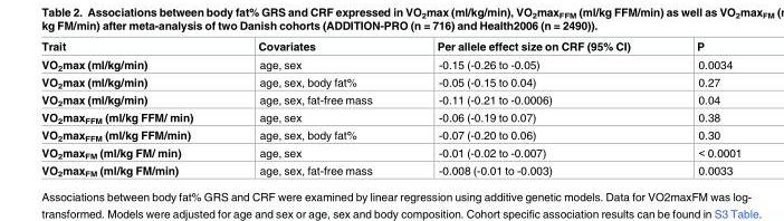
<table><thead><tr><td>Trait</td><td>Covariates</td><td>Per allele effect size on CRF (95% CI)</td><td>P</td></tr></thead><tbody><tr><td>VO<sub>2</sub>max (ml/kg/min)</td><td>age, sex</td><td>-0.15 (-0.26 to -0.05)</td><td>0.0034</td></tr><tr><td>VO<sub>2</sub>max (ml/kg/min)</td><td>age, sex, body fat%</td><td>-0.05 (-0.15 to 0.04)</td><td>0.27</td></tr><tr><td>VO<sub>2</sub>max (ml/kg/min)</td><td>age, sex, fat-free mass</td><td>-0.11 (-0.21 to -0.0006)</td><td>0.04</td></tr><tr><td>VO<sub>2</sub>max<sub>FFM</sub> (ml/kg FFM/ min)</td><td>age, sex</td><td>-0.06 (-0.19 to 0.07)</td><td>0.38</td></tr><tr><td>VO<sub>2</sub>max<sub>FFM</sub> (ml/kg FFM/min)</td><td>age, sex, body fat%</td><td>-0.07 (-0.20 to 0.06)</td><td>0.30</td></tr><tr><td>VO<sub>2</sub>max<sub>FM</sub> (ml/kg FM/ min)</td><td>age, sex</td><td>-0.01 (-0.02 to -0.007)</td><td>&lt; 0.0001</td></tr><tr><td>VO<sub>2</sub>max<sub>FM</sub> (ml/kg FM/min)</td><td>age, sex, fat-free mass</td><td>-0.008 (-0.01 to -0.003)</td><td>0.0033</td></tr></tbody></table>